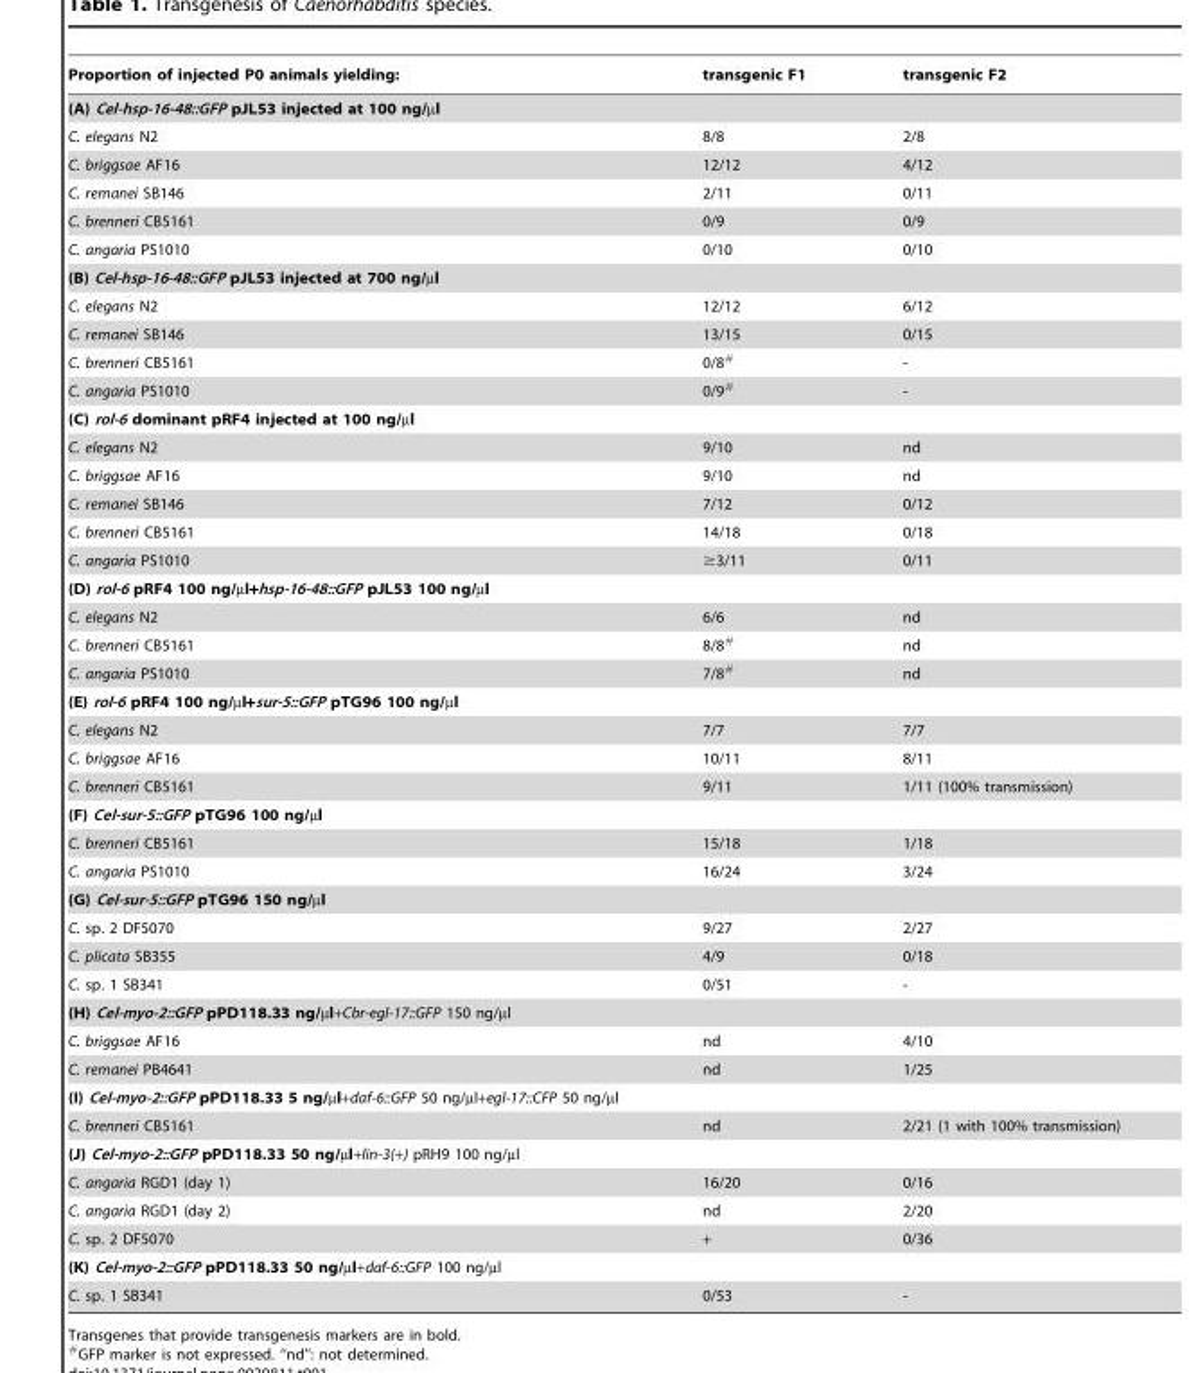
<table><thead><tr><td>Proportion of injected P0 animals yielding:</td><td>transgenic F1</td><td>transgenic F2</td></tr></thead><tbody><tr><td colspan="3">(A) Cel-hsp-16-48::GFP pJL53 injected at 100 ng/µl</td></tr><tr><td>C. elegans N2</td><td>8/8</td><td>2/8</td></tr><tr><td>C. briggsae AF16</td><td>12/12</td><td>4/12</td></tr><tr><td>C. remanei SB146</td><td>2/11</td><td>0/11</td></tr><tr><td>C. brenneri CB5161</td><td>0/9</td><td>0/9</td></tr><tr><td>C. angaria PS1010</td><td>0/10</td><td>0/10</td></tr><tr><td colspan="3">(B) Cel-hsp-16-48::GFP pJL53 injected at 700 ng/µl</td></tr><tr><td>C. elegans N2</td><td>12/12</td><td>6/12</td></tr><tr><td>C. remanei SB146</td><td>13/15</td><td>0/15</td></tr><tr><td>C. brenneri CB5161</td><td>0/8#</td><td>-</td></tr><tr><td>C. angaria PS1010</td><td>0/9#</td><td>-</td></tr><tr><td colspan="3">(C) rol-6 dominant pRF4 injected at 100 ng/µl</td></tr><tr><td>C. elegans N2</td><td>9/10</td><td>nd</td></tr><tr><td>C. briggsae AF16</td><td>9/10</td><td>nd</td></tr><tr><td>C. remanei SB146</td><td>7/12</td><td>0/12</td></tr><tr><td>C. brenneri CB5161</td><td>14/18</td><td>0/18</td></tr><tr><td>C. angaria PS1010</td><td>≥3/11</td><td>0/11</td></tr><tr><td colspan="3">(D) rol-6 pRF4 100 ng/µl+hsp-16-48::GFP pJL53 100 ng/µl</td></tr><tr><td>C. elegans N2</td><td>6/6</td><td>nd</td></tr><tr><td>C. brenneri CB5161</td><td>8/8#</td><td>nd</td></tr><tr><td>C. angaria PS1010</td><td>7/8#</td><td>nd</td></tr><tr><td colspan="3">(E) rol-6 pRF4 100 ng/µl+sur-5::GFP pTG96 100 ng/µl</td></tr><tr><td>C. elegans N2</td><td>7/7</td><td>7/7</td></tr><tr><td>C. briggsae AF16</td><td>10/11</td><td>8/11</td></tr><tr><td>C. brenneri CB5161</td><td>9/11</td><td>1/11 (100% transmission)</td></tr><tr><td colspan="3">(F) Cel-sur-5::GFP pTG96 100 ng/µl</td></tr><tr><td>C. brenneri CB5161</td><td>15/18</td><td>1/18</td></tr><tr><td>C. angaria PS1010</td><td>16/24</td><td>3/24</td></tr><tr><td colspan="3">(G) Cel-sur-5::GFP pTG96 150 ng/µl</td></tr><tr><td>C. sp. 2 DF5070</td><td>9/27</td><td>2/27</td></tr><tr><td>C. plicata SB355</td><td>4/9</td><td>0/18</td></tr><tr><td>C. sp. 1 SB341</td><td>0/51</td><td>-</td></tr><tr><td colspan="3">(H) Cel-myo-2::GFP pPD118.33 ng/µl+Cbr-egl-17::GFP 150 ng/µl</td></tr><tr><td>C. briggsae AF16</td><td>nd</td><td>4/10</td></tr><tr><td>C. remanei PB4641</td><td>nd</td><td>1/25</td></tr><tr><td colspan="3">(I) Cel-myo-2::GFP pPD118.33 5 ng/µl+daf-6::GFP 50 ng/µl+egl-17::CFP 50 ng/µl</td></tr><tr><td>C. brenneri CB5161</td><td>nd</td><td>2/21 (1 with 100% transmission)</td></tr><tr><td colspan="3">(J) Cel-myo-2::GFP pPD118.33 50 ng/µl+lin-3(+) pRH9 100 ng/µl</td></tr><tr><td>C. angaria RGD1 (day 1)</td><td>16/20</td><td>0/16</td></tr><tr><td>C. angaria RGD1 (day 2)</td><td>nd</td><td>2/20</td></tr><tr><td>C. sp. 2 DF5070</td><td>+</td><td>0/36</td></tr><tr><td colspan="3">(K) Cel-myo-2::GFP pPD118.33 50 ng/µl+daf-6::GFP 100 ng/µl</td></tr><tr><td>C. sp. 1 SB341</td><td>0/53</td><td>-</td></tr></tbody></table>